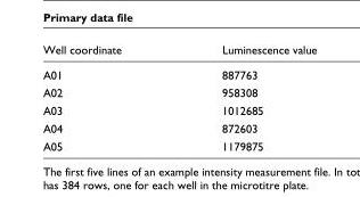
<table><thead><tr><td>Well coordinate</td><td>Luminescence value</td></tr></thead><tbody><tr><td>A01</td><td>887763</td></tr><tr><td>A02</td><td>958308</td></tr><tr><td>A03</td><td>1012685</td></tr><tr><td>A04</td><td>872603</td></tr><tr><td>A05</td><td>1179875</td></tr></tbody></table>